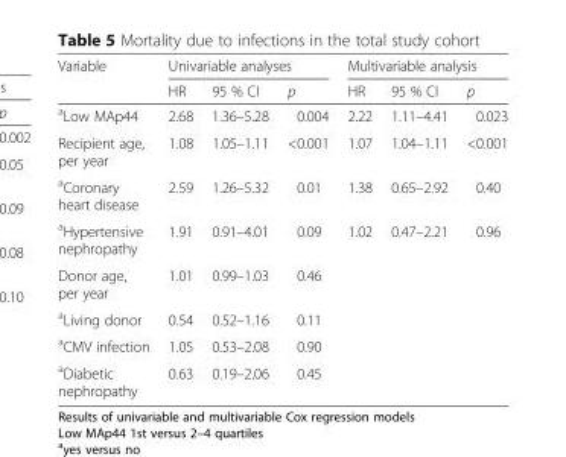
<table><thead><tr><td rowspan="2">Variable</td><td colspan="3">Univariable analyses</td><td colspan="3">Multivariable analysis</td></tr><tr><td>HR</td><td>95 % CI</td><td>p</td><td>HR</td><td>95 % CI</td><td>p</td></tr></thead><tbody><tr><td><sup>a</sup>Low MAp44</td><td>2.68</td><td>1.36–5.28</td><td>0.004</td><td>2.22</td><td>1.11–4.41</td><td>0.023</td></tr><tr><td>Recipient age, per year</td><td>1.08</td><td>1.05–1.11</td><td>&lt;0.001</td><td>1.07</td><td>1.04–1.11</td><td>&lt;0.001</td></tr><tr><td><sup>a</sup>Coronary heart disease</td><td>2.59</td><td>1.26–5.32</td><td>0.01</td><td>1.38</td><td>0.65–2.92</td><td>0.40</td></tr><tr><td><sup>a</sup>Hypertensive nephropathy</td><td>1.91</td><td>0.91–4.01</td><td>0.09</td><td>1.02</td><td>0.47–2.21</td><td>0.96</td></tr><tr><td>Donor age, per year</td><td>1.01</td><td>0.99–1.03</td><td>0.46</td><td></td><td></td><td></td></tr><tr><td><sup>a</sup>Living donor</td><td>0.54</td><td>0.52–1.16</td><td>0.11</td><td></td><td></td><td></td></tr><tr><td><sup>a</sup>CMV infection</td><td>1.05</td><td>0.53–2.08</td><td>0.90</td><td></td><td></td><td></td></tr><tr><td><sup>a</sup>Diabetic nephropathy</td><td>0.63</td><td>0.19–2.06</td><td>0.45</td><td></td><td></td><td></td></tr></tbody></table>